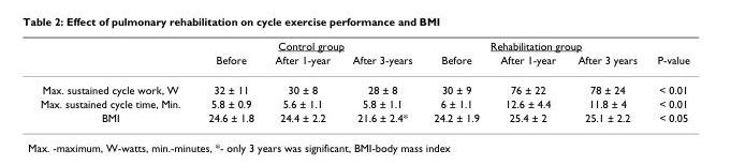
<table><thead><tr><td rowspan="2"></td><td colspan="3">Control group</td><td colspan="3">Rehabilitation group</td><td rowspan="2">P-value</td></tr><tr><td>Before</td><td>After 1-year</td><td>After 3-years</td><td>Before</td><td>After 1-year</td><td>After 3 years</td></tr></thead><tbody><tr><td>Max. sustained cycle work, W</td><td>32 ± 11</td><td>30 ± 8</td><td>28 ± 8</td><td>30 ± 9</td><td>76 ± 22</td><td>78 ± 24</td><td>&lt; 0.01</td></tr><tr><td>Max. sustained cycle time, Min.</td><td>5.8 ± 0.9</td><td>5.6 ± 1.1</td><td>5.8 ± 1.1</td><td>6 ± 1.1</td><td>12.6 ± 4.4</td><td>11.8 ± 4</td><td>&lt; 0.01</td></tr><tr><td>BMI</td><td>24.6 ± 1.8</td><td>24.4 ± 2.2</td><td>21.6 ± 2.4*</td><td>24.2 ± 1.9</td><td>25.4 ± 2</td><td>25.1 ± 2.2</td><td>&lt; 0.05</td></tr></tbody></table>